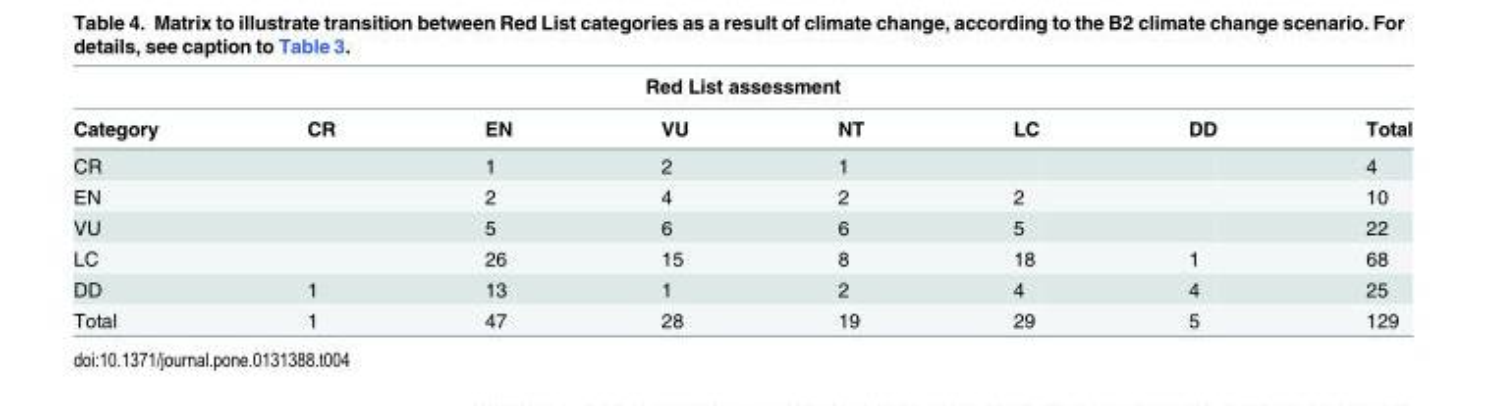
<table><thead><tr><td colspan="8">Red List assessment</td></tr><tr><td>Category</td><td>CR</td><td>EN</td><td>VU</td><td>NT</td><td>LC</td><td>DD</td><td>Total</td></tr></thead><tbody><tr><td>CR</td><td></td><td>1</td><td>2</td><td>1</td><td></td><td></td><td>4</td></tr><tr><td>EN</td><td></td><td>2</td><td>4</td><td>2</td><td>2</td><td></td><td>10</td></tr><tr><td>VU</td><td></td><td>5</td><td>6</td><td>6</td><td>5</td><td></td><td>22</td></tr><tr><td>LC</td><td></td><td>26</td><td>15</td><td>8</td><td>18</td><td>1</td><td>68</td></tr><tr><td>DD</td><td>1</td><td>13</td><td>1</td><td>2</td><td>4</td><td>4</td><td>25</td></tr><tr><td>Total</td><td>1</td><td>47</td><td>28</td><td>19</td><td>29</td><td>5</td><td>129</td></tr></tbody></table>